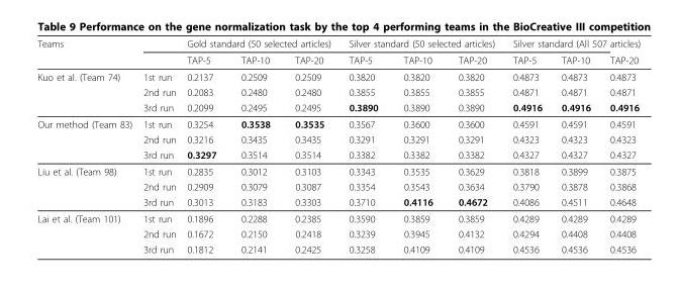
<table><thead><tr><td rowspan="2">Teams</td><td rowspan="2"></td><td colspan="3">Gold standard (50 selected articles)</td><td colspan="3">Silver standard (50 selected articles)</td><td colspan="3">Silver standard (All 507 articles)</td></tr><tr><td>TAP-5</td><td>TAP-10</td><td>TAP-20</td><td>TAP-5</td><td>TAP-10</td><td>TAP-20</td><td>TAP-5</td><td>TAP-10</td><td>TAP-20</td></tr></thead><tbody><tr><td rowspan="3">Kuo et al. (Team 74)</td><td>1st run</td><td>0.2137</td><td>0.2509</td><td>0.2509</td><td>0.3820</td><td>0.3820</td><td>0.3820</td><td>0.4873</td><td>0.4873</td><td>0.4873</td></tr><tr><td>2nd run</td><td>0.2083</td><td>0.2480</td><td>0.2480</td><td>0.3855</td><td>0.3855</td><td>0.3855</td><td>0.4871</td><td>0.4871</td><td>0.4871</td></tr><tr><td>3rd run</td><td>0.2099</td><td>0.2495</td><td>0.2495</td><td>0.3890</td><td>0.3890</td><td>0.3890</td><td>0.4916</td><td>0.4916</td><td>0.4916</td></tr><tr><td rowspan="3">Our method (Team 83)</td><td>1st run</td><td>0.3254</td><td>0.3538</td><td>0.3535</td><td>0.3567</td><td>0.3600</td><td>0.3600</td><td>0.4591</td><td>0.4591</td><td>0.4591</td></tr><tr><td>2nd run</td><td>0.3216</td><td>0.3435</td><td>0.3435</td><td>0.3291</td><td>0.3291</td><td>0.3291</td><td>0.4323</td><td>0.4323</td><td>0.4323</td></tr><tr><td>3rd run</td><td>0.3297</td><td>0.3514</td><td>0.3514</td><td>0.3382</td><td>0.3382</td><td>0.3382</td><td>0.4327</td><td>0.4327</td><td>0.4327</td></tr><tr><td rowspan="3">Liu et al. (Team 98)</td><td>1st run</td><td>0.2835</td><td>0.3012</td><td>0.3103</td><td>0.3343</td><td>0.3535</td><td>0.3629</td><td>0.3818</td><td>0.3899</td><td>0.3875</td></tr><tr><td>2nd run</td><td>0.2909</td><td>0.3079</td><td>0.3087</td><td>0.3354</td><td>0.3543</td><td>0.3634</td><td>0.3790</td><td>0.3878</td><td>0.3868</td></tr><tr><td>3rd run</td><td>0.3013</td><td>0.3183</td><td>0.3303</td><td>0.3710</td><td>0.4116</td><td>0.4672</td><td>0.4086</td><td>0.4511</td><td>0.4648</td></tr><tr><td rowspan="3">Lai et al. (Team 101)</td><td>1st run</td><td>0.1896</td><td>0.2288</td><td>0.2385</td><td>0.3590</td><td>0.3859</td><td>0.3859</td><td>0.4289</td><td>0.4289</td><td>0.4289</td></tr><tr><td>2nd run</td><td>0.1672</td><td>0.2150</td><td>0.2418</td><td>0.3239</td><td>0.3945</td><td>0.4132</td><td>0.4294</td><td>0.4408</td><td>0.4408</td></tr><tr><td>3rd run</td><td>0.1812</td><td>0.2141</td><td>0.2425</td><td>0.3258</td><td>0.4109</td><td>0.4109</td><td>0.4536</td><td>0.4536</td><td>0.4536</td></tr></tbody></table>